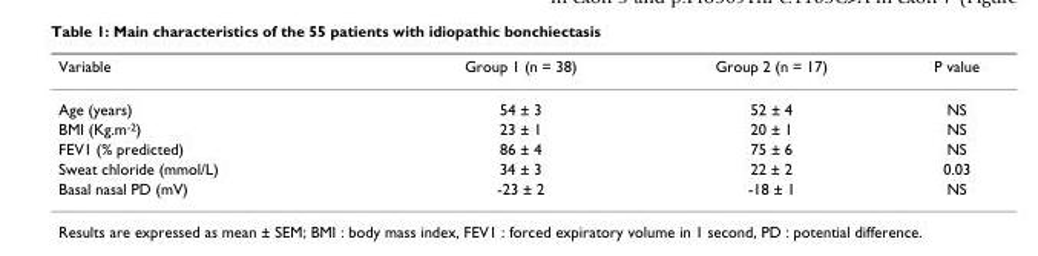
<table><thead><tr><td>Variable</td><td>Group 1 (n = 38)</td><td>Group 2 (n = 17)</td><td>P value</td></tr></thead><tbody><tr><td>Age (years)</td><td>54 ± 3</td><td>52 ± 4</td><td>NS</td></tr><tr><td>BMI (Kg.m<sup>-2</sup>)</td><td>23 ± 1</td><td>20 ± 1</td><td>NS</td></tr><tr><td>FEV1 (% predicted)</td><td>86 ± 4</td><td>75 ± 6</td><td>NS</td></tr><tr><td>Sweat chloride (mmol/L)</td><td>34 ± 3</td><td>22 ± 2</td><td>0.03</td></tr><tr><td>Basal nasal PD (mV)</td><td>-23 ± 2</td><td>-18 ± 1</td><td>NS</td></tr></tbody></table>